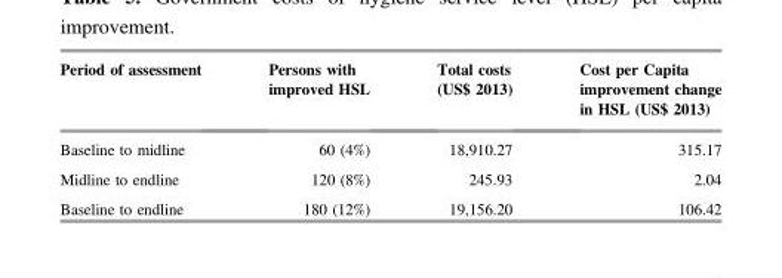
<table><thead><tr><td>Period of assessment</td><td>Persons with improved HSL</td><td>Total costs (US$ 2013)</td><td>Cost per Capita improvement change in HSL (US$ 2013)</td></tr></thead><tbody><tr><td>Baseline to midline</td><td>60 (4%)</td><td>18,910.27</td><td>315.17</td></tr><tr><td>Midline to endline</td><td>120 (8%)</td><td>245.93</td><td>2.04</td></tr><tr><td>Baseline to endline</td><td>180 (12%)</td><td>19,156.20</td><td>106.42</td></tr></tbody></table>